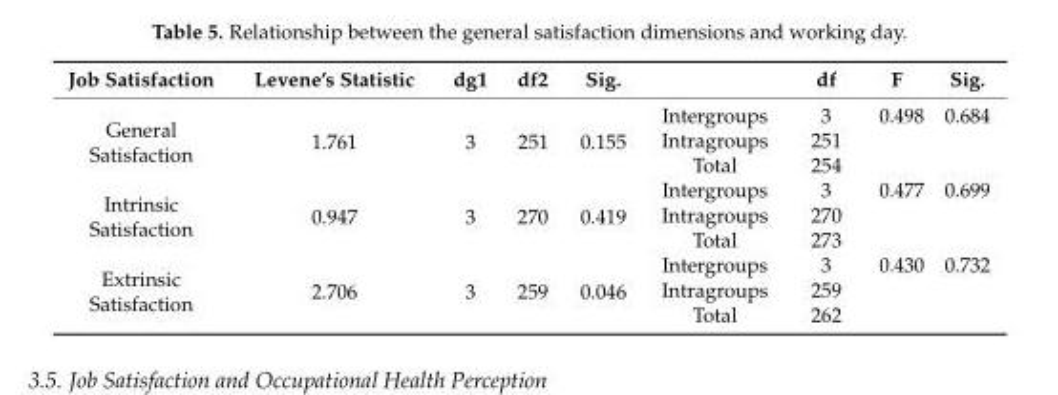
<table><thead><tr><td>Job Satisfaction</td><td>Levene’s Statistic</td><td>dg1</td><td>df2</td><td>Sig.</td><td></td><td>df</td><td>F</td><td>Sig.</td></tr></thead><tbody><tr><td rowspan="3">General Satisfaction</td><td rowspan="3">1.761</td><td rowspan="3">3</td><td rowspan="3">251</td><td rowspan="3">0.155</td><td>Intergroups</td><td>3</td><td>0.498</td><td>0.684</td></tr><tr><td>Intragroups</td><td>251</td><td></td><td></td></tr><tr><td>Total</td><td>254</td><td></td><td></td></tr><tr><td rowspan="3">Intrinsic Satisfaction</td><td rowspan="3">0.947</td><td rowspan="3">3</td><td rowspan="3">270</td><td rowspan="3">0.419</td><td>Intergroups</td><td>3</td><td>0.477</td><td>0.699</td></tr><tr><td>Intragroups</td><td>270</td><td></td><td></td></tr><tr><td>Total</td><td>273</td><td></td><td></td></tr><tr><td rowspan="3">Extrinsic Satisfaction</td><td rowspan="3">2.706</td><td rowspan="3">3</td><td rowspan="3">259</td><td rowspan="3">0.046</td><td>Intergroups</td><td>3</td><td>0.430</td><td>0.732</td></tr><tr><td>Intragroups</td><td>259</td><td></td><td></td></tr><tr><td>Total</td><td>262</td><td></td><td></td></tr></tbody></table>